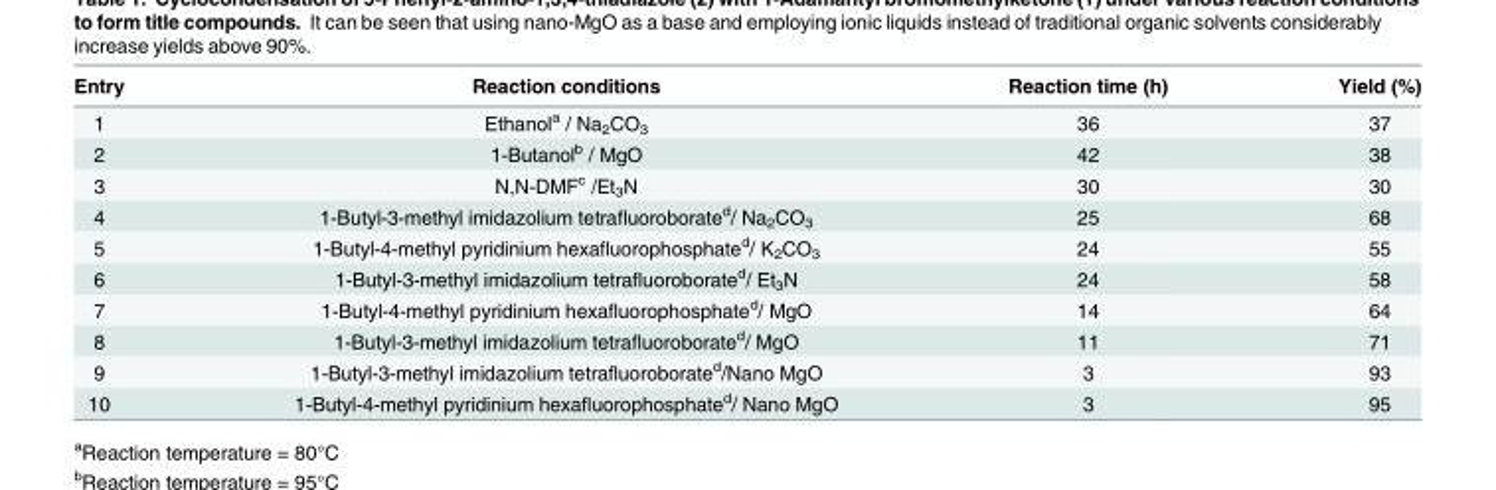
<table><thead><tr><td>Entry</td><td>Reaction conditions</td><td>Reaction time (h)</td><td>Yield (%)</td></tr></thead><tbody><tr><td>1</td><td>Ethanol<sup>a</sup> / Na<sub>2</sub>CO<sub>3</sub></td><td>36</td><td>37</td></tr><tr><td>2</td><td>1-Butanol<sup>b</sup> / MgO</td><td>42</td><td>38</td></tr><tr><td>3</td><td>N,N-DMF<sup>c</sup> /Et<sub>3</sub>N</td><td>30</td><td>30</td></tr><tr><td>4</td><td>1-Butyl-3-methyl imidazolium tetrafluoroborate<sup>d</sup>/ Na<sub>2</sub>CO<sub>3</sub></td><td>25</td><td>68</td></tr><tr><td>5</td><td>1-Butyl-4-methyl pyridinium hexafluorophosphate<sup>d</sup>/ K<sub>2</sub>CO<sub>3</sub></td><td>24</td><td>55</td></tr><tr><td>6</td><td>1-Butyl-3-methyl imidazolium tetrafluoroborate<sup>d</sup>/ Et<sub>3</sub>N</td><td>24</td><td>58</td></tr><tr><td>7</td><td>1-Butyl-4-methyl pyridinium hexafluorophosphate<sup>d</sup>/ MgO</td><td>14</td><td>64</td></tr><tr><td>8</td><td>1-Butyl-3-methyl imidazolium tetrafluoroborate<sup>d</sup>/ MgO</td><td>11</td><td>71</td></tr><tr><td>9</td><td>1-Butyl-3-methyl imidazolium tetrafluoroborate<sup>d</sup>/Nano MgO</td><td>3</td><td>93</td></tr><tr><td>10</td><td>1-Butyl-4-methyl pyridinium hexafluorophosphate<sup>d</sup>/ Nano MgO</td><td>3</td><td>95</td></tr></tbody></table>